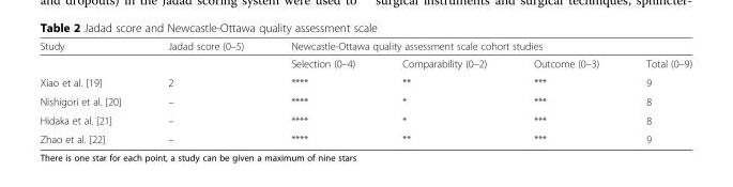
<table><thead><tr><td rowspan="2">Study</td><td rowspan="2">Jadad score (0–5)</td><td colspan="4">Newcastle-Ottawa quality assessment scale cohort studies</td></tr><tr><td>Selection (0–4)</td><td>Comparability (0–2)</td><td>Outcome (0–3)</td><td>Total (0–9)</td></tr></thead><tbody><tr><td>Xiao et al. [19]</td><td>2</td><td>****</td><td>**</td><td>***</td><td>9</td></tr><tr><td>Nishigori et al. [20]</td><td>–</td><td>****</td><td>*</td><td>***</td><td>8</td></tr><tr><td>Hidaka et al. [21]</td><td>–</td><td>****</td><td>*</td><td>***</td><td>8</td></tr><tr><td>Zhao et al. [22]</td><td>–</td><td>****</td><td>**</td><td>***</td><td>9</td></tr></tbody></table>